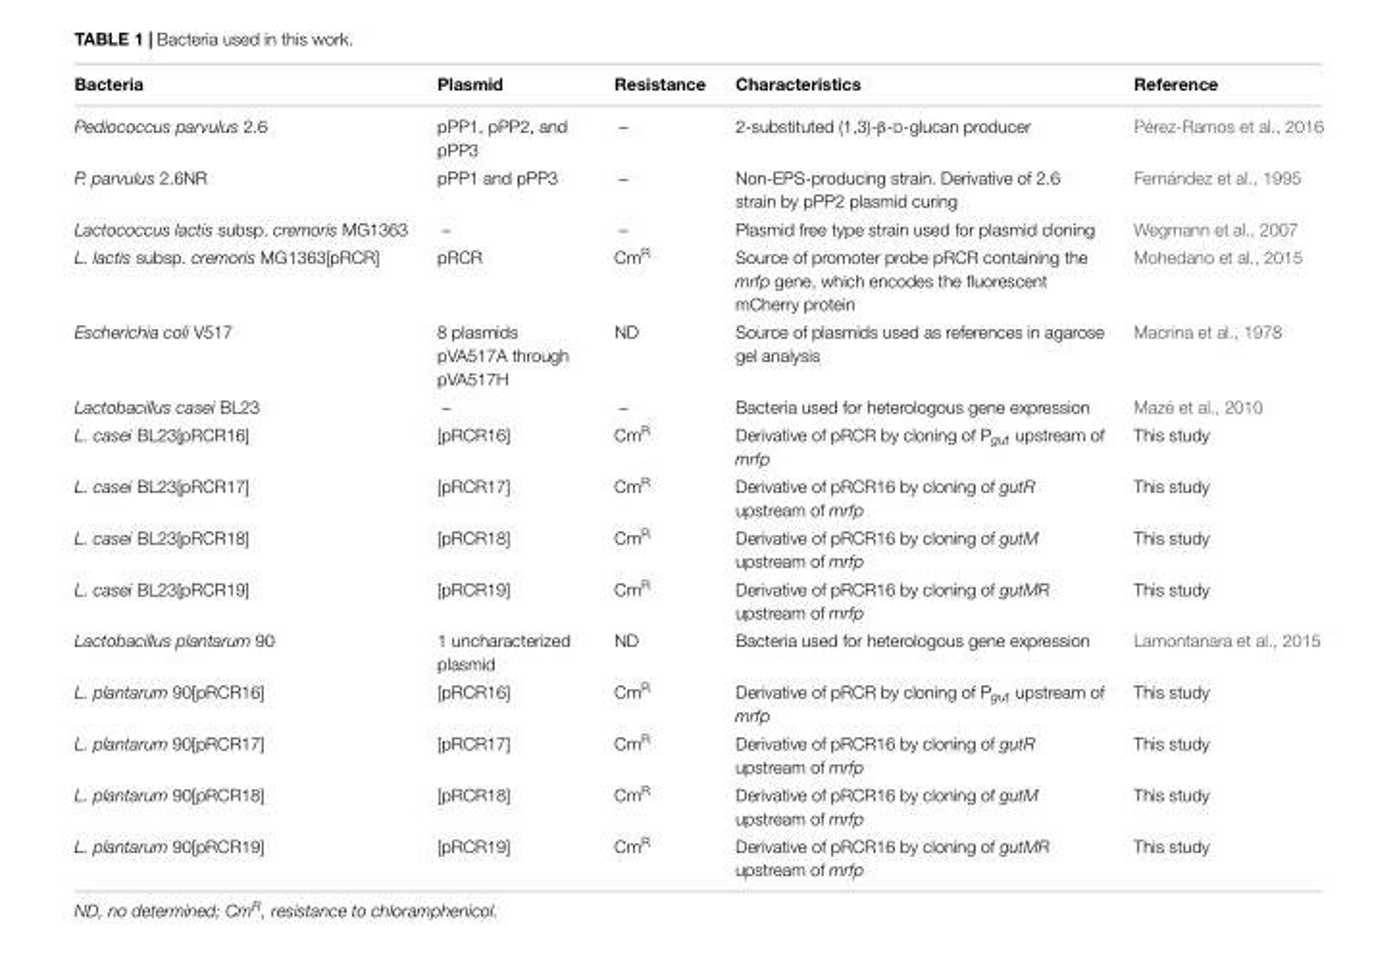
<table><thead><tr><td>Bacteria</td><td>Plasmid</td><td>Resistance</td><td>Characteristics</td><td>Reference</td></tr></thead><tbody><tr><td>Pediococcus parvulus 2.6</td><td>pPP1, pPP2, and pPP3</td><td>–</td><td>2-substituted (1,3)-β-D-glucan producer</td><td>Pérez-Ramos et al., 2016</td></tr><tr><td>P. parvulus 2.6NR</td><td>pPP1 and pPP3</td><td>–</td><td>Non-EPS-producing strain. Derivative of 2.6 strain by pPP2 plasmid curing</td><td>Fernández et al., 1995</td></tr><tr><td>Lactococcus lactis subsp. cremoris MG1363</td><td>–</td><td>–</td><td>Plasmid free type strain used for plasmid cloning</td><td>Wegmann et al., 2007</td></tr><tr><td>L. lactis subsp. cremoris MG1363[pRCR]</td><td>pRCR</td><td>Cm<sup>R</sup></td><td>Source of promoter probe pRCR containing the mrfp gene, which encodes the fluorescent mCherry protein</td><td>Mohedano et al., 2015</td></tr><tr><td>Escherichia coli V517</td><td>8 plasmids pVA517A through pVA517H</td><td>ND</td><td>Source of plasmids used as references in agarose gel analysis</td><td>Macrina et al., 1978</td></tr><tr><td>Lactobacillus casei BL23</td><td>–</td><td>–</td><td>Bacteria used for heterologous gene expression</td><td>Mazé et al., 2010</td></tr><tr><td>L. casei BL23[pRCR16]</td><td>[pRCR16]</td><td>Cm<sup>R</sup></td><td>Derivative of pRCR by cloning of P<sub>gut</sub> upstream of mrfp</td><td>This study</td></tr><tr><td>L. casei BL23[pRCR17]</td><td>[pRCR17]</td><td>Cm<sup>R</sup></td><td>Derivative of pRCR16 by cloning of gutR upstream of mrfp</td><td>This study</td></tr><tr><td>L. casei BL23[pRCR18]</td><td>[pRCR18]</td><td>Cm<sup>R</sup></td><td>Derivative of pRCR16 by cloning of gutM upstream of mrfp</td><td>This study</td></tr><tr><td>L. casei BL23[pRCR19]</td><td>[pRCR19]</td><td>Cm<sup>R</sup></td><td>Derivative of pRCR16 by cloning of gutMR upstream of mrfp</td><td>This study</td></tr><tr><td>Lactobacillus plantarum 90</td><td>1 uncharacterized plasmid</td><td>ND</td><td>Bacteria used for heterologous gene expression</td><td>Lamontanara et al., 2015</td></tr><tr><td>L. plantarum 90[pRCR16]</td><td>[pRCR16]</td><td>Cm<sup>R</sup></td><td>Derivative of pRCR by cloning of P<sub>gut</sub> upstream of mrfp</td><td>This study</td></tr><tr><td>L. plantarum 90[pRCR17]</td><td>[pRCR17]</td><td>Cm<sup>R</sup></td><td>Derivative of pRCR16 by cloning of gutR upstream of mrfp</td><td>This study</td></tr><tr><td>L. plantarum 90[pRCR18]</td><td>[pRCR18]</td><td>Cm<sup>R</sup></td><td>Derivative of pRCR16 by cloning of gutM upstream of mrfp</td><td>This study</td></tr><tr><td>L. plantarum 90[pRCR19]</td><td>[pRCR19]</td><td>Cm<sup>R</sup></td><td>Derivative of pRCR16 by cloning of gutMR upstream of mrfp</td><td>This study</td></tr></tbody></table>